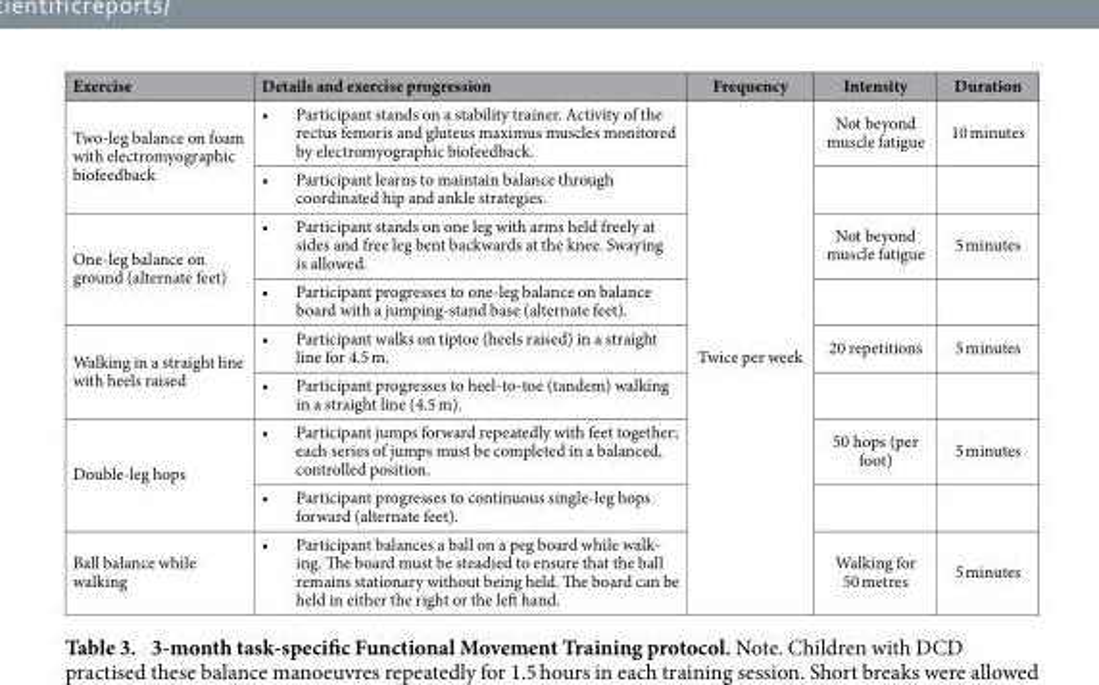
<table><thead><tr><td>Exercise</td><td>Details and exercise progression</td><td>Frequency</td><td>Intensity</td><td>Duration</td></tr></thead><tbody><tr><td rowspan="2">Two-leg balance on foam with electromyographic biofeedback</td><td>• Participant stands on a stability trainer. Activity of the rectus femoris and gluteus maximus muscles monitored by electromyographic biofeedback.</td><td rowspan="9">Twice per week</td><td>Not beyond muscle fatigue</td><td>10 minutes</td></tr><tr><td>• Participant learns to maintain balance through coordinated hip and ankle strategies.</td><td></td><td></td></tr><tr><td rowspan="2">One-leg balance on ground (alternate feet)</td><td>• Participant stands on one leg with arms held freely at sides and free leg bent backwards at the knee. Swaying is allowed.</td><td>Not beyond muscle fatigue</td><td>5 minutes</td></tr><tr><td>• Participant progresses to one-leg balance on balance board with a jumping-stand base (alternate feet).</td><td></td><td></td></tr><tr><td rowspan="2">Walking in a straight line with heels raised</td><td>• Participant walks on tiptoe (heels raised) in a straight line for 4.5 m.</td><td>20 repetitions</td><td>5 minutes</td></tr><tr><td>• Participant progresses to heel-to-toe (tandem) walking in a straight line (4.5 m).</td><td></td><td></td></tr><tr><td rowspan="2">Double-leg hops</td><td>• Participant jumps forward repeatedly with feet together; each series of jumps must be completed in a balanced, controlled position.</td><td>50 hops (per foot)</td><td>5 minutes</td></tr><tr><td>• Participant progresses to continuous single-leg hops forward (alternate feet).</td><td></td><td></td></tr><tr><td>Ball balance while walking</td><td>• Participant balances a ball on a peg board while walk- ing. The board must be steadied to ensure that the ball remains stationary without being held. The board can be held in either the right or the left hand.</td><td>Walking for 50 metres</td><td>5 minutes</td></tr></tbody></table>